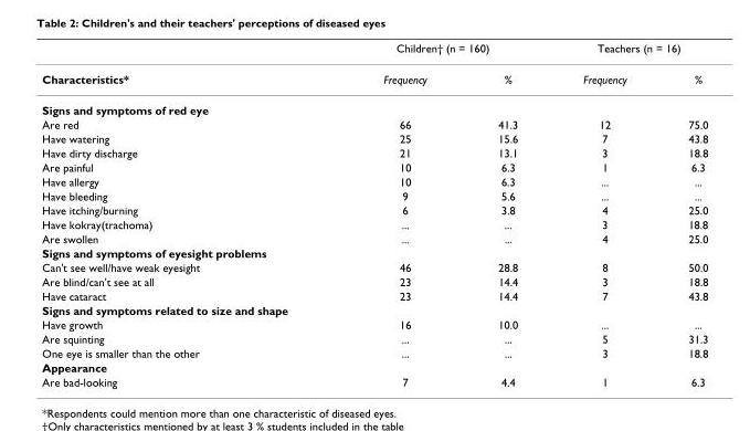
<table><thead><tr><td rowspan="2">Characteristics*</td><td colspan="2">Children† (n = 160)</td><td colspan="2">Teachers (n = 16)</td></tr><tr><td>Frequency</td><td>%</td><td>Frequency</td><td>%</td></tr></thead><tbody><tr><td colspan="5">Signs and symptoms of red eye</td></tr><tr><td>Are red</td><td>66</td><td>41.3</td><td>12</td><td>75.0</td></tr><tr><td>Have watering</td><td>25</td><td>15.6</td><td>7</td><td>43.8</td></tr><tr><td>Have dirty discharge</td><td>21</td><td>13.1</td><td>3</td><td>18.8</td></tr><tr><td>Are painful</td><td>10</td><td>6.3</td><td>1</td><td>6.3</td></tr><tr><td>Have allergy</td><td>10</td><td>6.3</td><td>...</td><td>...</td></tr><tr><td>Have bleeding</td><td>9</td><td>5.6</td><td>...</td><td>...</td></tr><tr><td>Have itching/burning</td><td>6</td><td>3.8</td><td>4</td><td>25.0</td></tr><tr><td>Have kokray(trachoma)</td><td>...</td><td>...</td><td>3</td><td>18.8</td></tr><tr><td>Are swollen</td><td>...</td><td>...</td><td>4</td><td>25.0</td></tr><tr><td colspan="5">Signs and symptoms of eyesight problems</td></tr><tr><td>Can&#x27;t see well/have weak eyesight</td><td>46</td><td>28.8</td><td>8</td><td>50.0</td></tr><tr><td>Are blind/can&#x27;t see at all</td><td>23</td><td>14.4</td><td>3</td><td>18.8</td></tr><tr><td>Have cataract</td><td>23</td><td>14.4</td><td>7</td><td>43.8</td></tr><tr><td colspan="5">Signs and symptoms related to size and shape</td></tr><tr><td>Have growth</td><td>16</td><td>10.0</td><td>...</td><td>...</td></tr><tr><td>Are squinting</td><td>...</td><td>...</td><td>5</td><td>31.3</td></tr><tr><td>One eye is smaller than the other</td><td>...</td><td>...</td><td>3</td><td>18.8</td></tr><tr><td colspan="5">Appearance</td></tr><tr><td>Are bad-looking</td><td>7</td><td>4.4</td><td>1</td><td>6.3</td></tr></tbody></table>